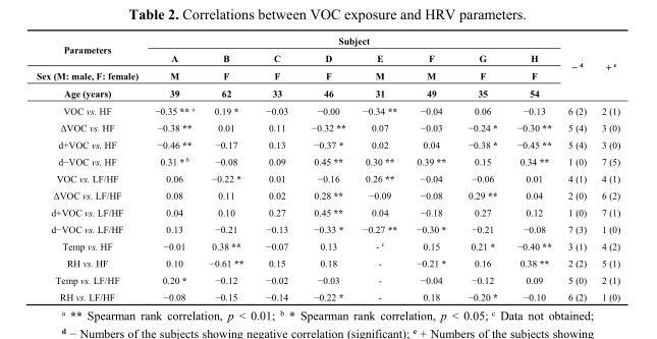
<table><thead><tr><td rowspan="4">Parameters Sex (M: male, F: female) Age (years)</td><td colspan="8">Subject</td><td rowspan="4">− <sup>d</sup></td><td rowspan="4">+ <sup>e</sup></td></tr><tr><td rowspan="3">A M 39</td><td rowspan="3">B F 62</td><td rowspan="3">C F 33</td><td rowspan="3">D F 46</td><td rowspan="3">E M 31</td><td rowspan="3">F M 49</td><td rowspan="3">G F 35</td><td rowspan="3">H F 54</td></tr><tr></tr><tr></tr></thead><tbody><tr><td>VOC vs. HF</td><td>−0.35 ** <sup>a</sup></td><td>0.19 *</td><td>−0.03</td><td>−0.00</td><td>−0.34 **</td><td>−0.04</td><td>0.06</td><td>−0.13</td><td>6 (2)</td><td>2 (1)</td></tr><tr><td>ΔVOC vs. HF</td><td>−0.38 **</td><td>0.01</td><td>0.11</td><td>−0.32 **</td><td>0.07</td><td>−0.03</td><td>−0.24 *</td><td>−0.30 **</td><td>5 (4)</td><td>3 (0)</td></tr><tr><td>d+VOC vs. HF</td><td>−0.46 **</td><td>−0.17</td><td>0.13</td><td>−0.37 *</td><td>0.02</td><td>0.04</td><td>−0.38 *</td><td>−0.45 **</td><td>5 (4)</td><td>3 (0)</td></tr><tr><td>d−VOC vs. HF</td><td>0.31 * <sup>b</sup></td><td>−0.08</td><td>0.09</td><td>0.45 **</td><td>0.30 **</td><td>0.39 **</td><td>0.15</td><td>0.34 **</td><td>1 (0)</td><td>7 (5)</td></tr><tr><td>VOC vs. LF/HF</td><td>0.06</td><td>−0.22 *</td><td>0.01</td><td>−0.16</td><td>0.26 **</td><td>−0.04</td><td>−0.06</td><td>0.01</td><td>4 (1)</td><td>4 (1)</td></tr><tr><td>ΔVOC vs. LF/HF</td><td>0.08</td><td>0.11</td><td>0.02</td><td>0.28 **</td><td>−0.09</td><td>−0.08</td><td>0.29 **</td><td>0.04</td><td>2 (0)</td><td>6 (2)</td></tr><tr><td>d+VOC vs. LF/HF</td><td>0.04</td><td>0.10</td><td>0.27</td><td>0.45 **</td><td>0.04</td><td>−0.18</td><td>0.27</td><td>0.12</td><td>1 (0)</td><td>7 (1)</td></tr><tr><td>d−VOC vs. LF/HF</td><td>0.13</td><td>−0.21</td><td>−0.13</td><td>−0.33 *</td><td>−0.27 **</td><td>−0.30 *</td><td>−0.21</td><td>−0.08</td><td>7 (3)</td><td>1 (0)</td></tr><tr><td>Temp vs. HF</td><td>−0.01</td><td>0.38 **</td><td>−0.07</td><td>0.13</td><td>- <sup>c</sup></td><td>0.15</td><td>0.21 *</td><td>−0.40 **</td><td>3 (1)</td><td>4 (2)</td></tr><tr><td>RH vs. HF</td><td>0.10</td><td>−0.61 **</td><td>0.15</td><td>0.18</td><td>-</td><td>−0.21 *</td><td>0.16</td><td>0.38 **</td><td>2 (2)</td><td>5 (1)</td></tr><tr><td>Temp vs. LF/HF</td><td>0.20 *</td><td>−0.12</td><td>−0.02</td><td>−0.03</td><td>-</td><td>−0.04</td><td>−0.12</td><td>0.09</td><td>5 (0)</td><td>2 (1)</td></tr><tr><td>RH vs. LF/HF</td><td>−0.08</td><td>−0.15</td><td>−0.14</td><td>−0.22 *</td><td>-</td><td>0.18</td><td>−0.20 *</td><td>−0.10</td><td>6 (2)</td><td>1 (0)</td></tr></tbody></table>